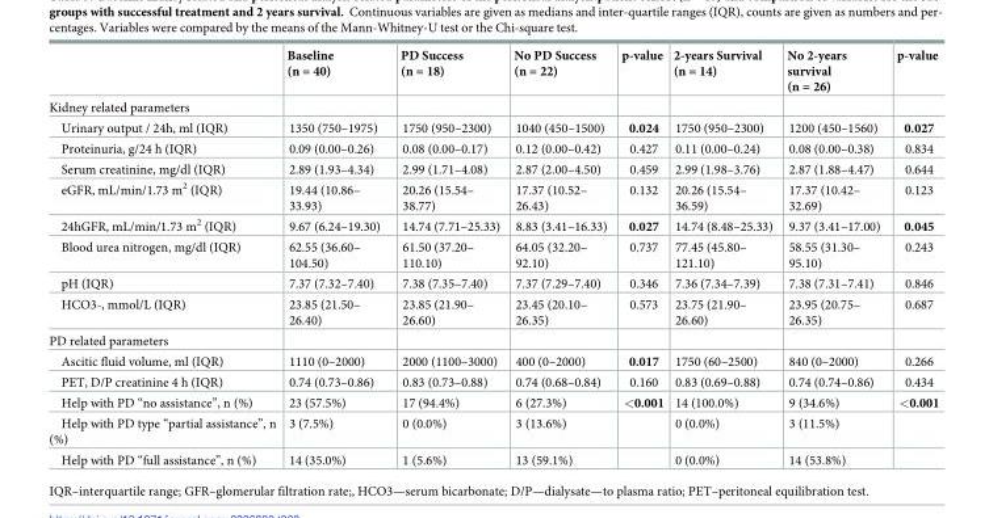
<table><thead><tr><td></td><td>Baseline (n = 40)</td><td>PD Success (n = 18)</td><td>No PD Success (n = 22)</td><td>p-value</td><td>2-years Survival (n = 14)</td><td>No 2-years survival (n = 26)</td><td>p-value</td></tr></thead><tbody><tr><td colspan="8">Kidney related parameters</td></tr><tr><td>Urinary output / 24h, ml (IQR)</td><td>1350 (750–1975)</td><td>1750 (950–2300)</td><td>1040 (450–1500)</td><td>0.024</td><td>1750 (950–2300)</td><td>1200 (450–1560)</td><td>0.027</td></tr><tr><td>Proteinuria, g/24 h (IQR)</td><td>0.09 (0.00–0.26)</td><td>0.08 (0.00–0.17)</td><td>0.12 (0.00–0.42)</td><td>0.427</td><td>0.11 (0.00–0.24)</td><td>0.08 (0.00–0.38)</td><td>0.834</td></tr><tr><td>Serum creatinine, mg/dl (IQR)</td><td>2.89 (1.93–4.34)</td><td>2.99 (1.71–4.08)</td><td>2.87 (2.00–4.50)</td><td>0.459</td><td>2.99 (1.98–3.76)</td><td>2.87 (1.88–4.47)</td><td>0.644</td></tr><tr><td>eGFR, mL/min/1.73 m<sup>2</sup> (IQR)</td><td>19.44 (10.86– 33.93)</td><td>20.26 (15.54– 38.77)</td><td>17.37 (10.52– 26.43)</td><td>0.132</td><td>20.26 (15.54– 36.59)</td><td>17.37 (10.42– 32.69)</td><td>0.123</td></tr><tr><td>24hGFR, mL/min/1.73 m<sup>2</sup> (IQR)</td><td>9.67 (6.24–19.30)</td><td>14.74 (7.71–25.33)</td><td>8.83 (3.41–16.33)</td><td>0.027</td><td>14.74 (8.48–25.33)</td><td>9.37 (3.41–17.00)</td><td>0.045</td></tr><tr><td>Blood urea nitrogen, mg/dl (IQR)</td><td>62.55 (36.60– 104.50)</td><td>61.50 (37.20– 110.10)</td><td>64.05 (32.20– 92.10)</td><td>0.737</td><td>77.45 (45.80– 121.10)</td><td>58.55 (31.30– 95.10)</td><td>0.243</td></tr><tr><td>pH (IQR)</td><td>7.37 (7.32–7.40)</td><td>7.38 (7.35–7.40)</td><td>7.37 (7.29–7.40)</td><td>0.346</td><td>7.36 (7.34–7.39)</td><td>7.38 (7.31–7.41)</td><td>0.846</td></tr><tr><td>HCO3-, mmol/L (IQR)</td><td>23.85 (21.50– 26.40)</td><td>23.85 (21.90– 26.60)</td><td>23.45 (20.10– 26.35)</td><td>0.573</td><td>23.75 (21.90– 26.60)</td><td>23.95 (20.75– 26.35)</td><td>0.687</td></tr><tr><td colspan="8">PD related parameters</td></tr><tr><td>Ascitic fluid volume, ml (IQR)</td><td>1110 (0–2000)</td><td>2000 (1100–3000)</td><td>400 (0–2000)</td><td>0.017</td><td>1750 (60–2500)</td><td>840 (0–2000)</td><td>0.266</td></tr><tr><td>PET, D/P creatinine 4 h (IQR)</td><td>0.74 (0.73–0.86)</td><td>0.83 (0.73–0.88)</td><td>0.74 (0.68–0.84)</td><td>0.160</td><td>0.83 (0.69–0.88)</td><td>0.74 (0.74–0.86)</td><td>0.434</td></tr><tr><td>Help with PD “no assistance”, n (%)</td><td>23 (57.5%)</td><td>17 (94.4%)</td><td>6 (27.3%)</td><td>&lt;0.001</td><td>14 (100.0%)</td><td>9 (34.6%)</td><td>&lt;0.001</td></tr><tr><td>Help with PD type “partial assistance”, n (%)</td><td>3 (7.5%)</td><td>0 (0.0%)</td><td>3 (13.6%)</td><td></td><td>0 (0.0%)</td><td>3 (11.5%)</td><td></td></tr><tr><td>Help with PD “full assistance”, n (%)</td><td>14 (35.0%)</td><td>1 (5.6%)</td><td>13 (59.1%)</td><td></td><td>0 (0.0%)</td><td>14 (53.8%)</td><td></td></tr></tbody></table>